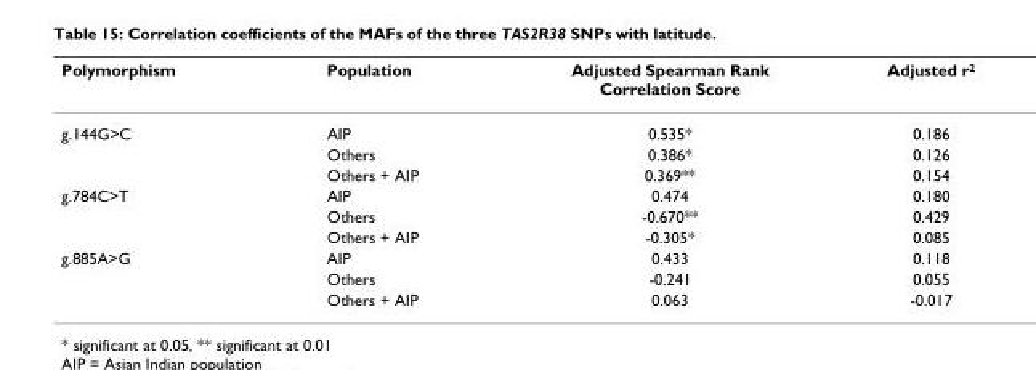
<table><thead><tr><td>Polymorphism</td><td>Population</td><td>Adjusted Spearman Rank Correlation Score</td><td>Adjusted r<sup>2</sup></td></tr></thead><tbody><tr><td rowspan="3">g.144G&gt;C</td><td>AIP</td><td>0.535*</td><td>0.186</td></tr><tr><td>Others</td><td>0.386*</td><td>0.126</td></tr><tr><td>Others + AIP</td><td>0.369**</td><td>0.154</td></tr><tr><td rowspan="3">g.784C&gt;T</td><td>AIP</td><td>0.474</td><td>0.180</td></tr><tr><td>Others</td><td>-0.670**</td><td>0.429</td></tr><tr><td>Others + AIP</td><td>-0.305*</td><td>0.085</td></tr><tr><td rowspan="3">g.885A&gt;G</td><td>AIP</td><td>0.433</td><td>0.118</td></tr><tr><td>Others</td><td>-0.241</td><td>0.055</td></tr><tr><td>Others + AIP</td><td>0.063</td><td>-0.017</td></tr></tbody></table>